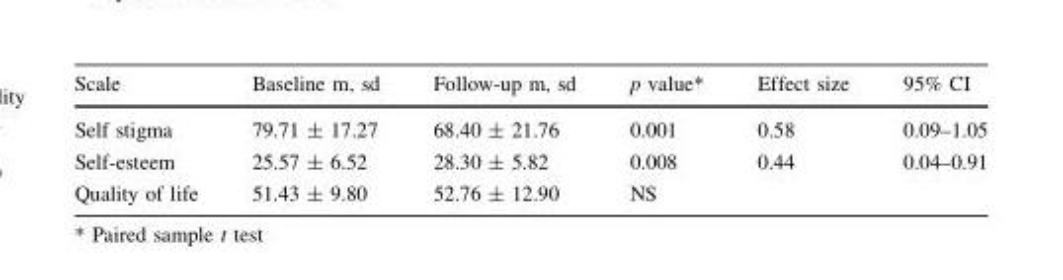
<table><thead><tr><td>Scale</td><td>Baseline m, sd</td><td>Follow-up m, sd</td><td>p value*</td><td>Effect size</td><td>95% CI</td></tr></thead><tbody><tr><td>Self stigma</td><td>79.71 ± 17.27</td><td>68.40 ± 21.76</td><td>0.001</td><td>0.58</td><td>0.09–1.05</td></tr><tr><td>Self-esteem</td><td>25.57 ± 6.52</td><td>28.30 ± 5.82</td><td>0.008</td><td>0.44</td><td>0.04–0.91</td></tr><tr><td>Quality of life</td><td>51.43 ± 9.80</td><td>52.76 ± 12.90</td><td>NS</td><td></td><td></td></tr></tbody></table>